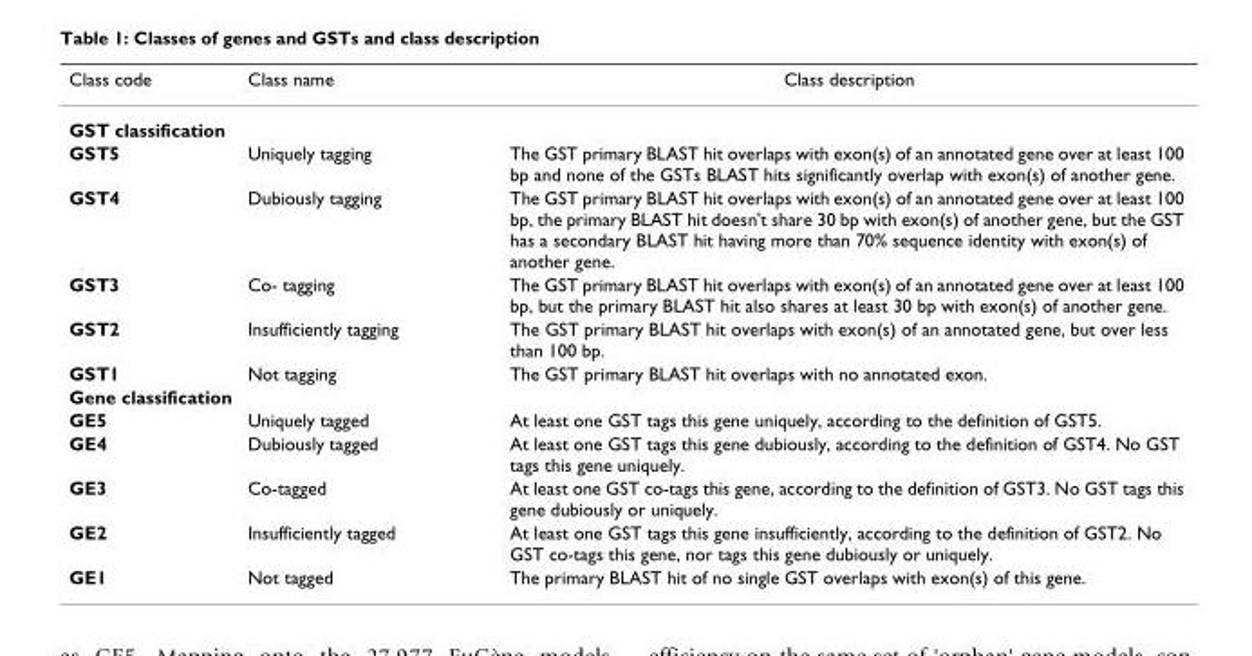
<table><thead><tr><td>Class code</td><td>Class name</td><td>Class description</td></tr></thead><tbody><tr><td colspan="3">GST classification</td></tr><tr><td>GST5</td><td>Uniquely tagging</td><td>The GST primary BLAST hit overlaps with exon(s) of an annotated gene over at least 100 bp and none of the GSTs BLAST hits significantly overlap with exon(s) of another gene.</td></tr><tr><td>GST4</td><td>Dubiously tagging</td><td>The GST primary BLAST hit overlaps with exon(s) of an annotated gene over at least 100 bp, the primary BLAST hit doesn&#x27;t share 30 bp with exon(s) of another gene, but the GST has a secondary BLAST hit having more than 70% sequence identity with exon(s) of another gene.</td></tr><tr><td>GST3</td><td>Co- tagging</td><td>The GST primary BLAST hit overlaps with exon(s) of an annotated gene over at least 100 bp, but the primary BLAST hit also shares at least 30 bp with exon(s) of another gene.</td></tr><tr><td>GST2</td><td>Insufficiently tagging</td><td>The GST primary BLAST hit overlaps with exon(s) of an annotated gene, but over less than 100 bp.</td></tr><tr><td>GST1</td><td>Not tagging</td><td>The GST primary BLAST hit overlaps with no annotated exon.</td></tr><tr><td colspan="3">Gene classification</td></tr><tr><td>GE5</td><td>Uniquely tagged</td><td>At least one GST tags this gene uniquely, according to the definition of GST5.</td></tr><tr><td>GE4</td><td>Dubiously tagged</td><td>At least one GST tags this gene dubiously, according to the definition of GST4. No GST tags this gene uniquely.</td></tr><tr><td>GE3</td><td>Co-tagged</td><td>At least one GST co-tags this gene, according to the definition of GST3. No GST tags this gene dubiously or uniquely.</td></tr><tr><td>GE2</td><td>Insufficiently tagged</td><td>At least one GST tags this gene insufficiently, according to the definition of GST2. No GST co-tags this gene, nor tags this gene dubiously or uniquely.</td></tr><tr><td>GE1</td><td>Not tagged</td><td>The primary BLAST hit of no single GST overlaps with exon(s) of this gene.</td></tr></tbody></table>